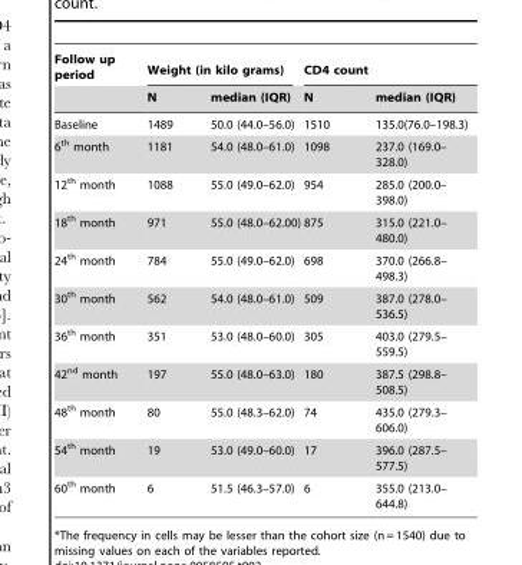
<table><thead><tr><td rowspan="2">Follow up period</td><td colspan="2">Weight (in kilo grams)</td><td colspan="2">CD4 count</td></tr><tr><td>N</td><td>median (IQR)</td><td>N</td><td>median (IQR)</td></tr></thead><tbody><tr><td>Baseline</td><td>1489</td><td>50.0 (44.0–56.0)</td><td>1510</td><td>135.0(76.0–198.3)</td></tr><tr><td>6<sup>th</sup> month</td><td>1181</td><td>54.0 (48.0–61.0)</td><td>1098</td><td>237.0 (169.0– 328.0)</td></tr><tr><td>12<sup>th</sup> month</td><td>1088</td><td>55.0 (49.0–62.0)</td><td>954</td><td>285.0 (200.0– 398.0)</td></tr><tr><td>18<sup>th</sup> month</td><td>971</td><td>55.0 (48.0–62.00)</td><td>875</td><td>315.0 (221.0– 480.0)</td></tr><tr><td>24<sup>th</sup> month</td><td>784</td><td>55.0 (49.0–62.0)</td><td>698</td><td>370.0 (266.8– 498.3)</td></tr><tr><td>30<sup>th</sup> month</td><td>562</td><td>54.0 (48.0–61.0)</td><td>509</td><td>387.0 (278.0– 536.5)</td></tr><tr><td>36<sup>th</sup> month</td><td>351</td><td>53.0 (48.0–60.0)</td><td>305</td><td>403.0 (279.5– 559.5)</td></tr><tr><td>42<sup>nd</sup> month</td><td>197</td><td>55.0 (48.0–63.0)</td><td>180</td><td>387.5 (298.8– 508.5)</td></tr><tr><td>48<sup>th</sup> month</td><td>80</td><td>55.0 (48.3–62.0)</td><td>74</td><td>435.0 (279.3– 606.0)</td></tr><tr><td>54<sup>th</sup> month</td><td>19</td><td>53.0 (49.0–60.0)</td><td>17</td><td>396.0 (287.5– 577.5)</td></tr><tr><td>60<sup>th</sup> month</td><td>6</td><td>51.5 (46.3–57.0)</td><td>6</td><td>355.0 (213.0– 644.8)</td></tr></tbody></table>